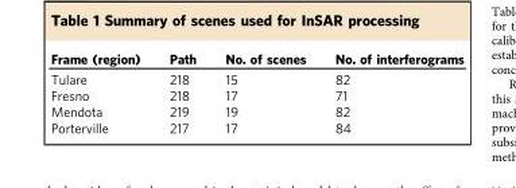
<table><thead><tr><td>Frame (region)</td><td>Path</td><td>No. of scenes</td><td>No. of interferograms</td></tr></thead><tbody><tr><td>Tulare</td><td>218</td><td>15</td><td>82</td></tr><tr><td>Fresno</td><td>218</td><td>17</td><td>71</td></tr><tr><td>Mendota</td><td>219</td><td>19</td><td>82</td></tr><tr><td>Porterville</td><td>217</td><td>17</td><td>84</td></tr></tbody></table>